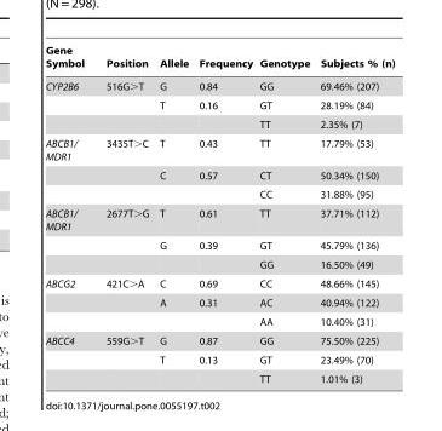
<table><thead><tr><td>Gene Symbol</td><td>Position</td><td>Allele</td><td>Frequency</td><td>Genotype</td><td>Subjects % (n)</td></tr></thead><tbody><tr><td rowspan="3">CYP2B6</td><td>516G&gt;T</td><td>G</td><td>0.84</td><td>GG</td><td>69.46% (207)</td></tr><tr><td></td><td>T</td><td>0.16</td><td>GT</td><td>28.19% (84)</td></tr><tr><td></td><td></td><td></td><td>TT</td><td>2.35% (7)</td></tr><tr><td rowspan="3">ABCB1/ MDR1</td><td>3435T&gt;C</td><td>T</td><td>0.43</td><td>TT</td><td>17.79% (53)</td></tr><tr><td></td><td>C</td><td>0.57</td><td>CT</td><td>50.34% (150)</td></tr><tr><td></td><td></td><td></td><td>CC</td><td>31.88% (95)</td></tr><tr><td rowspan="3">ABCB1/ MDR1</td><td>2677T&gt;G</td><td>T</td><td>0.61</td><td>TT</td><td>37.71% (112)</td></tr><tr><td></td><td>G</td><td>0.39</td><td>GT</td><td>45.79% (136)</td></tr><tr><td></td><td></td><td></td><td>GG</td><td>16.50% (49)</td></tr><tr><td rowspan="3">ABCG2</td><td>421C&gt;A</td><td>C</td><td>0.69</td><td>CC</td><td>48.66% (145)</td></tr><tr><td></td><td>A</td><td>0.31</td><td>AC</td><td>40.94% (122)</td></tr><tr><td></td><td></td><td></td><td>AA</td><td>10.40% (31)</td></tr><tr><td rowspan="3">ABCC4</td><td>559G&gt;T</td><td>G</td><td>0.87</td><td>GG</td><td>75.50% (225)</td></tr><tr><td></td><td>T</td><td>0.13</td><td>GT</td><td>23.49% (70)</td></tr><tr><td></td><td></td><td></td><td>TT</td><td>1.01% (3)</td></tr></tbody></table>